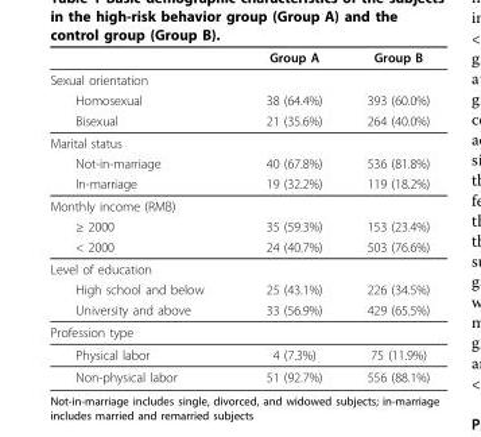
<table><thead><tr><td></td><td>Group A</td><td>Group B</td></tr></thead><tbody><tr><td colspan="3">Sexual orientation</td></tr><tr><td>Homosexual</td><td>38 (64.4%)</td><td>393 (60.0%)</td></tr><tr><td>Bisexual</td><td>21 (35.6%)</td><td>264 (40.0%)</td></tr><tr><td colspan="3">Marital status</td></tr><tr><td>Not-in-marriage</td><td>40 (67.8%)</td><td>536 (81.8%)</td></tr><tr><td>In-marriage</td><td>19 (32.2%)</td><td>119 (18.2%)</td></tr><tr><td colspan="3">Monthly income (RMB)</td></tr><tr><td>≥ 2000</td><td>35 (59.3%)</td><td>153 (23.4%)</td></tr><tr><td>&lt; 2000</td><td>24 (40.7%)</td><td>503 (76.6%)</td></tr><tr><td colspan="3">Level of education</td></tr><tr><td>High school and below</td><td>25 (43.1%)</td><td>226 (34.5%)</td></tr><tr><td>University and above</td><td>33 (56.9%)</td><td>429 (65.5%)</td></tr><tr><td colspan="3">Profession type</td></tr><tr><td>Physical labor</td><td>4 (7.3%)</td><td>75 (11.9%)</td></tr><tr><td>Non-physical labor</td><td>51 (92.7%)</td><td>556 (88.1%)</td></tr></tbody></table>